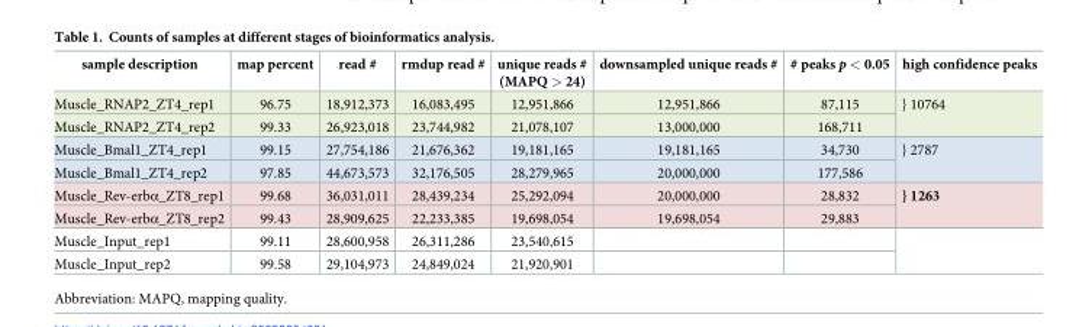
<table><thead><tr><td>sample description</td><td>map percent</td><td>read #</td><td>rmdup read #</td><td>unique reads # (MAPQ &gt; 24)</td><td>downsampled unique reads #</td><td># peaks p &lt; 0.05</td><td>high confidence peaks</td></tr></thead><tbody><tr><td>Muscle_RNAP2_ZT4_rep1</td><td>96.75</td><td>18,912,373</td><td>16,083,495</td><td>12,951,866</td><td>12,951,866</td><td>87,115</td><td rowspan="2">} 10764</td></tr><tr><td>Muscle_RNAP2_ZT4_rep2</td><td>99.33</td><td>26,923,018</td><td>23,744,982</td><td>21,078,107</td><td>13,000,000</td><td>168,711</td></tr><tr><td>Muscle_Bmal1_ZT4_rep1</td><td>99.15</td><td>27,754,186</td><td>21,676,362</td><td>19,181,165</td><td>19,181,165</td><td>34,730</td><td rowspan="2">} 2787</td></tr><tr><td>Muscle_Bmal1_ZT4_rep2</td><td>97.85</td><td>44,673,573</td><td>32,176,505</td><td>28,279,965</td><td>20,000,000</td><td>177,586</td></tr><tr><td>Muscle_Rev-erbα_ZT8_rep1</td><td>99.68</td><td>36,031,011</td><td>28,439,234</td><td>25,292,094</td><td>20,000,000</td><td>28,832</td><td rowspan="2">} 1263</td></tr><tr><td>Muscle_Rev-erbα_ZT8_rep2</td><td>99.43</td><td>28,909,625</td><td>22,233,385</td><td>19,698,054</td><td>19,698,054</td><td>29,883</td></tr><tr><td>Muscle_Input_rep1</td><td>99.11</td><td>28,600,958</td><td>26,311,286</td><td>23,540,615</td><td></td><td></td><td rowspan="2"></td></tr><tr><td>Muscle_Input_rep2</td><td>99.58</td><td>29,104,973</td><td>24,849,024</td><td>21,920,901</td><td></td><td></td></tr></tbody></table>